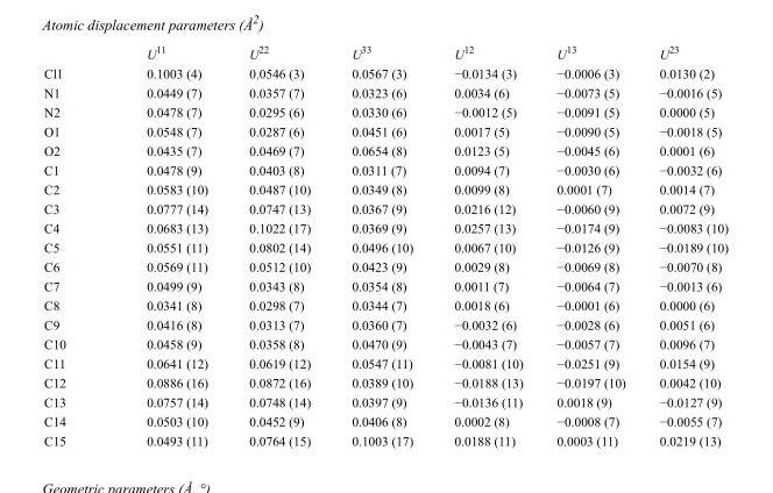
<table><thead><tr><td></td><td>U<sup>11</sup></td><td>U<sup>22</sup></td><td>U<sup>33</sup></td><td>U<sup>12</sup></td><td>U<sup>13</sup></td><td>U<sup>23</sup></td></tr></thead><tbody><tr><td>Cl1</td><td>0.1003 (4)</td><td>0.0546 (3)</td><td>0.0567 (3)</td><td>−0.0134 (3)</td><td>−0.0006 (3)</td><td>0.0130 (2)</td></tr><tr><td>N1</td><td>0.0449 (7)</td><td>0.0357 (7)</td><td>0.0323 (6)</td><td>0.0034 (6)</td><td>−0.0073 (5)</td><td>−0.0016 (5)</td></tr><tr><td>N2</td><td>0.0478 (7)</td><td>0.0295 (6)</td><td>0.0330 (6)</td><td>−0.0012 (5)</td><td>−0.0091 (5)</td><td>0.0000 (5)</td></tr><tr><td>O1</td><td>0.0548 (7)</td><td>0.0287 (6)</td><td>0.0451 (6)</td><td>0.0017 (5)</td><td>−0.0090 (5)</td><td>−0.0018 (5)</td></tr><tr><td>O2</td><td>0.0435 (7)</td><td>0.0469 (7)</td><td>0.0654 (8)</td><td>0.0123 (5)</td><td>−0.0045 (6)</td><td>0.0001 (6)</td></tr><tr><td>C1</td><td>0.0478 (9)</td><td>0.0403 (8)</td><td>0.0311 (7)</td><td>0.0094 (7)</td><td>−0.0030 (6)</td><td>−0.0032 (6)</td></tr><tr><td>C2</td><td>0.0583 (10)</td><td>0.0487 (10)</td><td>0.0349 (8)</td><td>0.0099 (8)</td><td>0.0001 (7)</td><td>0.0014 (7)</td></tr><tr><td>C3</td><td>0.0777 (14)</td><td>0.0747 (13)</td><td>0.0367 (9)</td><td>0.0216 (12)</td><td>−0.0060 (9)</td><td>0.0072 (9)</td></tr><tr><td>C4</td><td>0.0683 (13)</td><td>0.1022 (17)</td><td>0.0369 (9)</td><td>0.0257 (13)</td><td>−0.0174 (9)</td><td>−0.0083 (10)</td></tr><tr><td>C5</td><td>0.0551 (11)</td><td>0.0802 (14)</td><td>0.0496 (10)</td><td>0.0067 (10)</td><td>−0.0126 (9)</td><td>−0.0189 (10)</td></tr><tr><td>C6</td><td>0.0569 (11)</td><td>0.0512 (10)</td><td>0.0423 (9)</td><td>0.0029 (8)</td><td>−0.0069 (8)</td><td>−0.0070 (8)</td></tr><tr><td>C7</td><td>0.0499 (9)</td><td>0.0343 (8)</td><td>0.0354 (8)</td><td>0.0011 (7)</td><td>−0.0064 (7)</td><td>−0.0013 (6)</td></tr><tr><td>C8</td><td>0.0341 (8)</td><td>0.0298 (7)</td><td>0.0344 (7)</td><td>0.0018 (6)</td><td>−0.0001 (6)</td><td>0.0000 (6)</td></tr><tr><td>C9</td><td>0.0416 (8)</td><td>0.0313 (7)</td><td>0.0360 (7)</td><td>−0.0032 (6)</td><td>−0.0028 (6)</td><td>0.0051 (6)</td></tr><tr><td>C10</td><td>0.0458 (9)</td><td>0.0358 (8)</td><td>0.0470 (9)</td><td>−0.0043 (7)</td><td>−0.0057 (7)</td><td>0.0096 (7)</td></tr><tr><td>C11</td><td>0.0641 (12)</td><td>0.0619 (12)</td><td>0.0547 (11)</td><td>−0.0081 (10)</td><td>−0.0251 (9)</td><td>0.0154 (9)</td></tr><tr><td>C12</td><td>0.0886 (16)</td><td>0.0872 (16)</td><td>0.0389 (10)</td><td>−0.0188 (13)</td><td>−0.0197 (10)</td><td>0.0042 (10)</td></tr><tr><td>C13</td><td>0.0757 (14)</td><td>0.0748 (14)</td><td>0.0397 (9)</td><td>−0.0136 (11)</td><td>0.0018 (9)</td><td>−0.0127 (9)</td></tr><tr><td>C14</td><td>0.0503 (10)</td><td>0.0452 (9)</td><td>0.0406 (8)</td><td>0.0002 (8)</td><td>−0.0008 (7)</td><td>−0.0055 (7)</td></tr><tr><td>C15</td><td>0.0493 (11)</td><td>0.0764 (15)</td><td>0.1003 (17)</td><td>0.0188 (11)</td><td>0.0003 (11)</td><td>0.0219 (13)</td></tr></tbody></table>